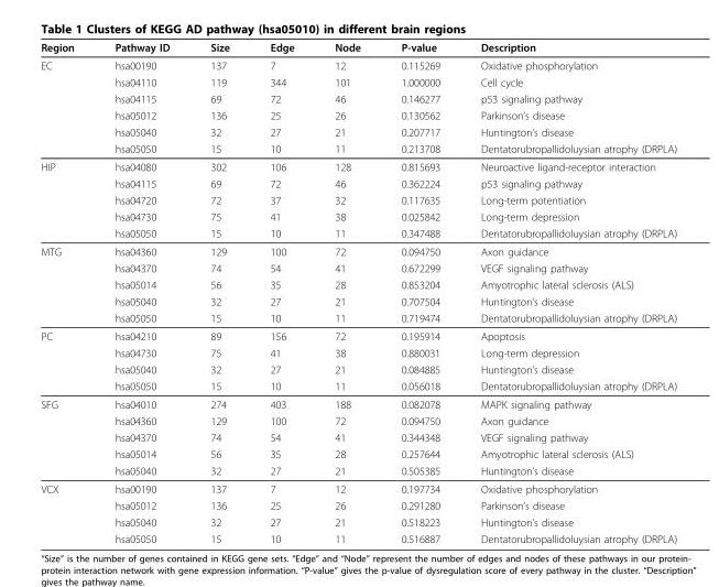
<table><thead><tr><td>Region</td><td>Pathway ID</td><td>Size</td><td>Edge</td><td>Node</td><td>P-value</td><td>Description</td></tr></thead><tbody><tr><td rowspan="6">EC</td><td>hsa00190</td><td>137</td><td>7</td><td>12</td><td>0.115269</td><td>Oxidative phosphorylation</td></tr><tr><td>hsa04110</td><td>119</td><td>344</td><td>101</td><td>1.000000</td><td>Cell cycle</td></tr><tr><td>hsa04115</td><td>69</td><td>72</td><td>46</td><td>0.146277</td><td>p53 signaling pathway</td></tr><tr><td>hsa05012</td><td>136</td><td>25</td><td>26</td><td>0.130562</td><td>Parkinson’s disease</td></tr><tr><td>hsa05040</td><td>32</td><td>27</td><td>21</td><td>0.207717</td><td>Huntington’s disease</td></tr><tr><td>hsa05050</td><td>15</td><td>10</td><td>11</td><td>0.213708</td><td>Dentatorubropallidoluysian atrophy (DRPLA)</td></tr><tr><td rowspan="5">HIP</td><td>hsa04080</td><td>302</td><td>106</td><td>128</td><td>0.815693</td><td>Neuroactive ligand-receptor interaction</td></tr><tr><td>hsa04115</td><td>69</td><td>72</td><td>46</td><td>0.362224</td><td>p53 signaling pathway</td></tr><tr><td>hsa04720</td><td>72</td><td>37</td><td>32</td><td>0.117635</td><td>Long-term potentiation</td></tr><tr><td>hsa04730</td><td>75</td><td>41</td><td>38</td><td>0.025842</td><td>Long-term depression</td></tr><tr><td>hsa05050</td><td>15</td><td>10</td><td>11</td><td>0.347488</td><td>Dentatorubropallidoluysian atrophy (DRPLA)</td></tr><tr><td rowspan="5">MTG</td><td>hsa04360</td><td>129</td><td>100</td><td>72</td><td>0.094750</td><td>Axon guidance</td></tr><tr><td>hsa04370</td><td>74</td><td>54</td><td>41</td><td>0.672299</td><td>VEGF signaling pathway</td></tr><tr><td>hsa05014</td><td>56</td><td>35</td><td>28</td><td>0.853204</td><td>Amyotrophic lateral sclerosis (ALS)</td></tr><tr><td>hsa05040</td><td>32</td><td>27</td><td>21</td><td>0.707504</td><td>Huntington’s disease</td></tr><tr><td>hsa05050</td><td>15</td><td>10</td><td>11</td><td>0.719474</td><td>Dentatorubropallidoluysian atrophy (DRPLA)</td></tr><tr><td rowspan="4">PC</td><td>hsa04210</td><td>89</td><td>156</td><td>72</td><td>0.195914</td><td>Apoptosis</td></tr><tr><td>hsa04730</td><td>75</td><td>41</td><td>38</td><td>0.880031</td><td>Long-term depression</td></tr><tr><td>hsa05040</td><td>32</td><td>27</td><td>21</td><td>0.084885</td><td>Huntington’s disease</td></tr><tr><td>hsa05050</td><td>15</td><td>10</td><td>11</td><td>0.056018</td><td>Dentatorubropallidoluysian atrophy (DRPLA)</td></tr><tr><td rowspan="5">SFG</td><td>hsa04010</td><td>274</td><td>403</td><td>188</td><td>0.082078</td><td>MAPK signaling pathway</td></tr><tr><td>hsa04360</td><td>129</td><td>100</td><td>72</td><td>0.094750</td><td>Axon guidance</td></tr><tr><td>hsa04370</td><td>74</td><td>54</td><td>41</td><td>0.344348</td><td>VEGF signaling pathway</td></tr><tr><td>hsa05014</td><td>56</td><td>35</td><td>28</td><td>0.257644</td><td>Amyotrophic lateral sclerosis (ALS)</td></tr><tr><td>hsa05040</td><td>32</td><td>27</td><td>21</td><td>0.505385</td><td>Huntington’s disease</td></tr><tr><td rowspan="4">VCX</td><td>hsa00190</td><td>137</td><td>7</td><td>12</td><td>0.197734</td><td>Oxidative phosphorylation</td></tr><tr><td>hsa05012</td><td>136</td><td>25</td><td>26</td><td>0.291280</td><td>Parkinson’s disease</td></tr><tr><td>hsa05040</td><td>32</td><td>27</td><td>21</td><td>0.518223</td><td>Huntington’s disease</td></tr><tr><td>hsa05050</td><td>15</td><td>10</td><td>11</td><td>0.516887</td><td>Dentatorubropallidoluysian atrophy (DRPLA)</td></tr></tbody></table>